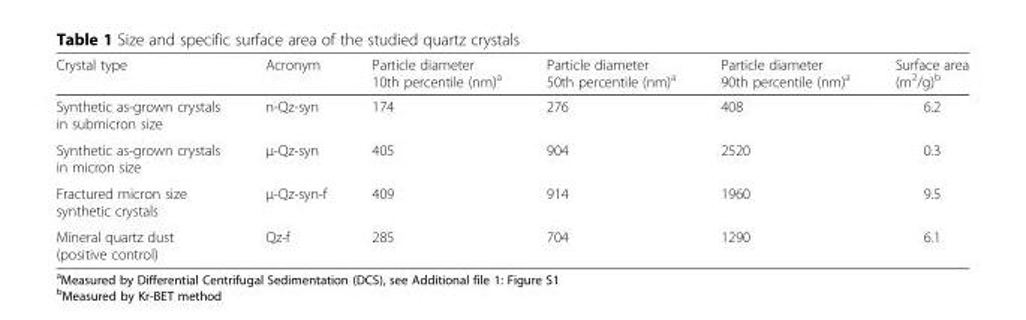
<table><thead><tr><td>Crystal type</td><td>Acronym</td><td>Particle diameter 10th percentile (nm)<sup>a</sup></td><td>Particle diameter 50th percentile (nm)<sup>a</sup></td><td>Particle diameter 90th percentile (nm)<sup>a</sup></td><td>Surface area (m<sup>2</sup>/g)<sup>b</sup></td></tr></thead><tbody><tr><td>Synthetic as-grown crystals in submicron size</td><td>n-Qz-syn</td><td>174</td><td>276</td><td>408</td><td>6.2</td></tr><tr><td>Synthetic as-grown crystals in micron size</td><td>μ-Qz-syn</td><td>405</td><td>904</td><td>2520</td><td>0.3</td></tr><tr><td>Fractured micron size synthetic crystals</td><td>μ-Qz-syn-f</td><td>409</td><td>914</td><td>1960</td><td>9.5</td></tr><tr><td>Mineral quartz dust (positive control)</td><td>Qz-f</td><td>285</td><td>704</td><td>1290</td><td>6.1</td></tr></tbody></table>